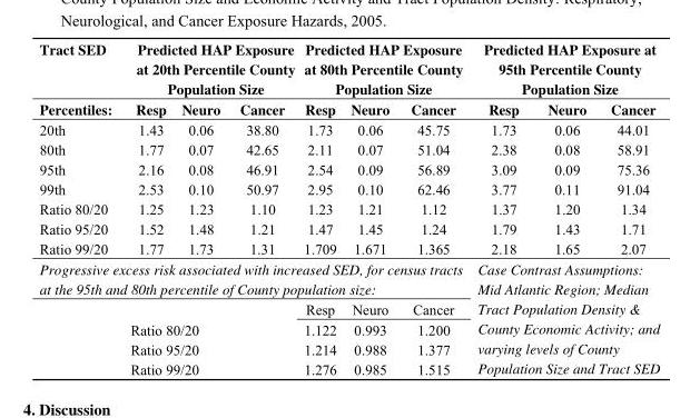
<table><thead><tr><td rowspan="2">Tract SED Percentiles:</td><td colspan="3">Predicted HAP Exposure at 20th Percentile County Population Size</td><td colspan="3">Predicted HAP Exposure at 80th Percentile County Population Size</td><td colspan="3">Predicted HAP Exposure at 95th Percentile County Population Size</td></tr><tr><td>Resp</td><td>Neuro</td><td>Cancer</td><td>Resp</td><td>Neuro</td><td>Cancer</td><td>Resp</td><td>Neuro</td><td>Cancer</td></tr></thead><tbody><tr><td>20th</td><td>1.43</td><td>0.06</td><td>38.80</td><td>1.73</td><td>0.06</td><td>45.75</td><td>1.73</td><td>0.06</td><td>44.01</td></tr><tr><td>80th</td><td>1.77</td><td>0.07</td><td>42.65</td><td>2.11</td><td>0.07</td><td>51.04</td><td>2.38</td><td>0.08</td><td>58.91</td></tr><tr><td>95th</td><td>2.16</td><td>0.08</td><td>46.91</td><td>2.54</td><td>0.09</td><td>56.89</td><td>3.09</td><td>0.09</td><td>75.36</td></tr><tr><td>99th</td><td>2.53</td><td>0.10</td><td>50.97</td><td>2.95</td><td>0.10</td><td>62.46</td><td>3.77</td><td>0.11</td><td>91.04</td></tr><tr><td>Ratio 80/20</td><td>1.25</td><td>1.23</td><td>1.10</td><td>1.23</td><td>1.21</td><td>1.12</td><td>1.37</td><td>1.20</td><td>1.34</td></tr><tr><td>Ratio 95/20</td><td>1.52</td><td>1.48</td><td>1.21</td><td>1.47</td><td>1.45</td><td>1.24</td><td>1.79</td><td>1.43</td><td>1.71</td></tr><tr><td>Ratio 99/20</td><td>1.77</td><td>1.73</td><td>1.31</td><td>1.709</td><td>1.671</td><td>1.365</td><td>2.18</td><td>1.65</td><td>2.07</td></tr><tr><td colspan="7">Progressive excess risk associated with increased SED, for census tracts at the 95th and 80th percentile of County population size:</td><td rowspan="5" colspan="3">Case Contrast Assumptions: Mid Atlantic Region; Median Tract Population Density &amp; County Economic Activity; and varying levels of County Population Size and Tract SED</td></tr><tr><td></td><td></td><td></td><td></td><td>Resp</td><td>Neuro</td><td>Cancer</td></tr><tr><td colspan="4">Ratio 80/20</td><td>1.122</td><td>0.993</td><td>1.200</td></tr><tr><td colspan="4">Ratio 95/20</td><td>1.214</td><td>0.988</td><td>1.377</td></tr><tr><td colspan="4">Ratio 99/20</td><td>1.276</td><td>0.985</td><td>1.515</td></tr></tbody></table>